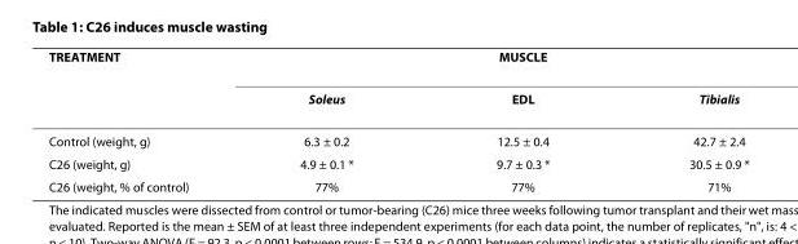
<table><thead><tr><td rowspan="2">TREATMENT</td><td colspan="3">MUSCLE</td></tr><tr><td>Soleus</td><td>EDL</td><td>Tibialis</td></tr></thead><tbody><tr><td>Control (weight, g)</td><td>6.3 ± 0.2</td><td>12.5 ± 0.4</td><td>42.7 ± 2.4</td></tr><tr><td>C26 (weight, g)</td><td>4.9 ± 0.1 *</td><td>9.7 ± 0.3 *</td><td>30.5 ± 0.9 *</td></tr><tr><td>C26 (weight, % of control)</td><td>77%</td><td>77%</td><td>71%</td></tr></tbody></table>